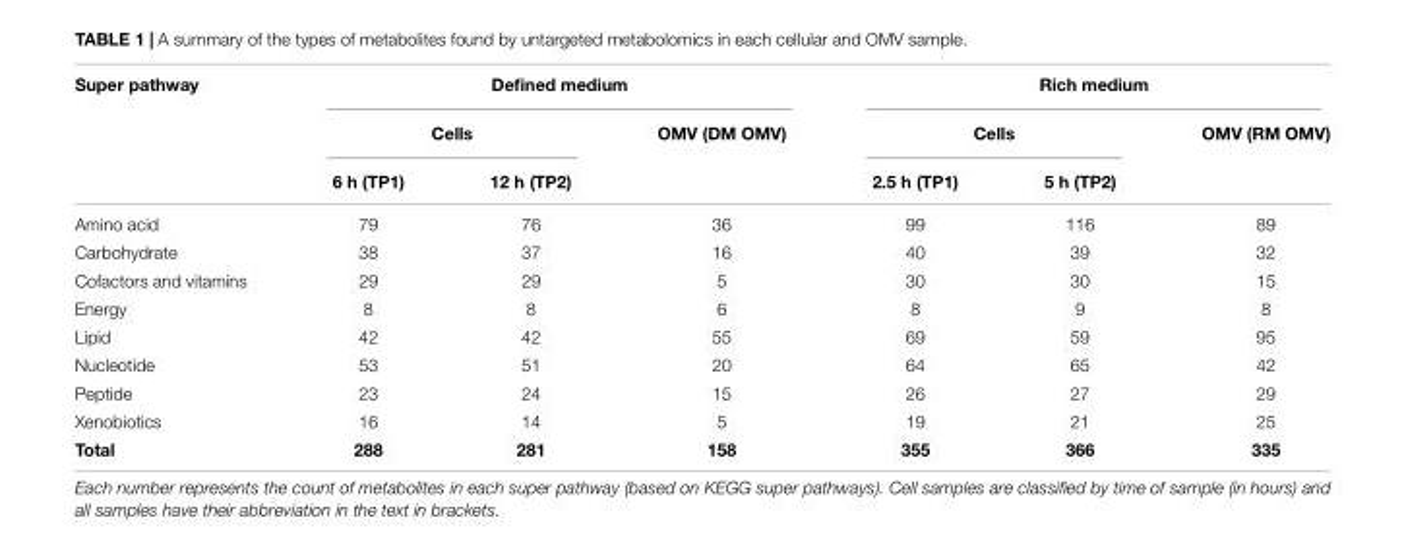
<table><thead><tr><td rowspan="3">Super pathway</td><td colspan="3">Defined medium</td><td colspan="3">Rich medium</td></tr><tr><td colspan="2">Cells</td><td rowspan="2">OMV (DM OMV)</td><td colspan="2">Cells</td><td rowspan="2">OMV (RM OMV)</td></tr><tr><td>6 h (TP1)</td><td>12 h (TP2)</td><td>2.5 h (TP1)</td><td>5 h (TP2)</td></tr></thead><tbody><tr><td>Amino acid</td><td>79</td><td>76</td><td>36</td><td>99</td><td>116</td><td>89</td></tr><tr><td>Carbohydrate</td><td>38</td><td>37</td><td>16</td><td>40</td><td>39</td><td>32</td></tr><tr><td>Cofactors and vitamins</td><td>29</td><td>29</td><td>5</td><td>30</td><td>30</td><td>15</td></tr><tr><td>Energy</td><td>8</td><td>8</td><td>6</td><td>8</td><td>9</td><td>8</td></tr><tr><td>Lipid</td><td>42</td><td>42</td><td>55</td><td>69</td><td>59</td><td>95</td></tr><tr><td>Nucleotide</td><td>53</td><td>51</td><td>20</td><td>64</td><td>65</td><td>42</td></tr><tr><td>Peptide</td><td>23</td><td>24</td><td>15</td><td>26</td><td>27</td><td>29</td></tr><tr><td>Xenobiotics</td><td>16</td><td>14</td><td>5</td><td>19</td><td>21</td><td>25</td></tr><tr><td>Total</td><td>288</td><td>281</td><td>158</td><td>355</td><td>366</td><td>335</td></tr></tbody></table>